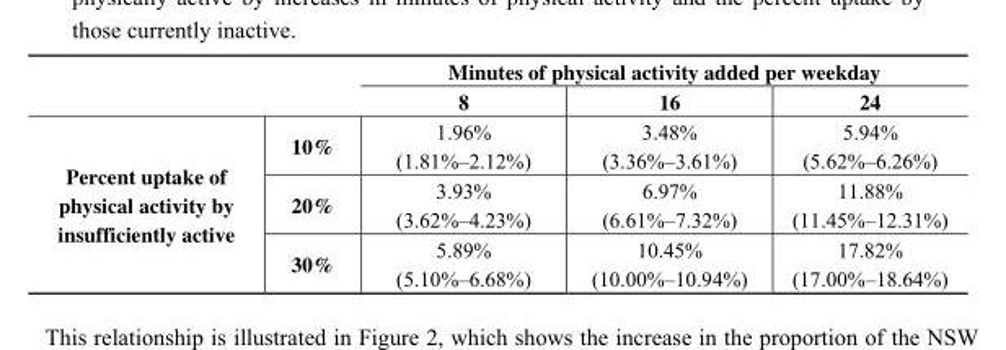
<table><thead><tr><td rowspan="2"></td><td rowspan="2"></td><td colspan="3">Minutes of physical activity added per weekday</td></tr><tr><td>8</td><td>16</td><td>24</td></tr></thead><tbody><tr><td rowspan="6">Percent uptake of physical activity by insufficiently active</td><td rowspan="2">10%</td><td>1.96%</td><td>3.48%</td><td>5.94%</td></tr><tr><td>(1.81%–2.12%)</td><td>(3.36%–3.61%)</td><td>(5.62%–6.26%)</td></tr><tr><td rowspan="2">20%</td><td>3.93%</td><td>6.97%</td><td>11.88%</td></tr><tr><td>(3.62%–4.23%)</td><td>(6.61%–7.32%)</td><td>(11.45%–12.31%)</td></tr><tr><td rowspan="2">30%</td><td>5.89%</td><td>10.45%</td><td>17.82%</td></tr><tr><td>(5.10%–6.68%)</td><td>(10.00%–10.94%)</td><td>(17.00%–18.64%)</td></tr></tbody></table>